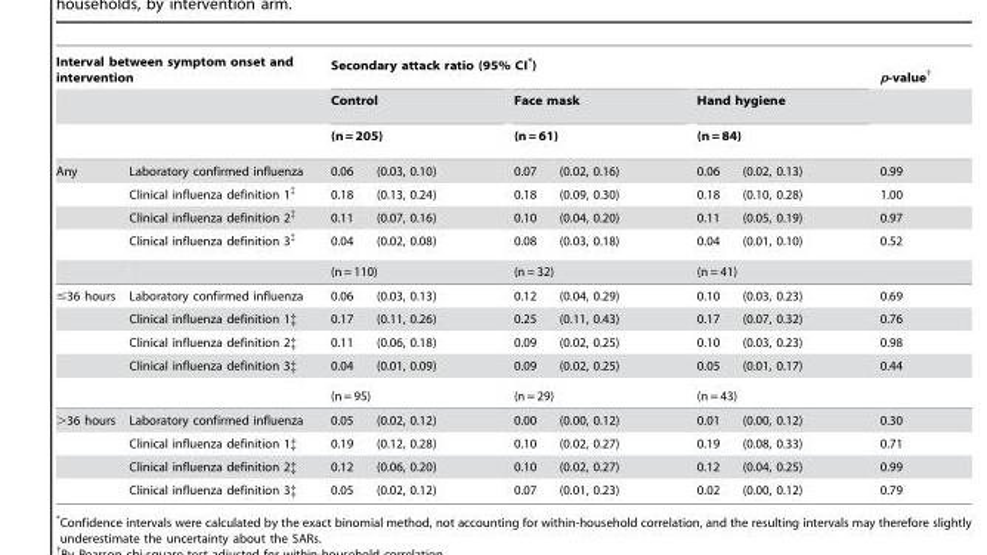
<table><thead><tr><td colspan="2">Interval between symptom onset and intervention</td><td colspan="6">Secondary attack ratio (95% CI*)</td><td rowspan="4">p-value† 0.99</td></tr><tr><td rowspan="3">Any</td><td rowspan="3">Laboratory confirmed influenza</td><td rowspan="2" colspan="2">Control (n = 205)</td><td rowspan="2" colspan="2">Face mask (n = 61)</td><td rowspan="2" colspan="2">Hand hygiene (n = 84)</td></tr><tr></tr><tr><td>0.06</td><td>(0.03, 0.10)</td><td>0.07</td><td>(0.02, 0.16)</td><td>0.06</td><td>(0.02, 0.13)</td></tr></thead><tbody><tr><td></td><td>Clinical influenza definition 1‡</td><td>0.18</td><td>(0.13, 0.24)</td><td>0.18</td><td>(0.09, 0.30)</td><td>0.18</td><td>(0.10, 0.28)</td><td>1.00</td></tr><tr><td></td><td>Clinical influenza definition 2‡</td><td>0.11</td><td>(0.07, 0.16)</td><td>0.10</td><td>(0.04, 0.20)</td><td>0.11</td><td>(0.05, 0.19)</td><td>0.97</td></tr><tr><td></td><td>Clinical influenza definition 3‡</td><td>0.04</td><td>(0.02, 0.08)</td><td>0.08</td><td>(0.03, 0.18)</td><td>0.04</td><td>(0.01, 0.10)</td><td>0.52</td></tr><tr><td></td><td></td><td colspan="2">(n = 110)</td><td colspan="2">(n = 32)</td><td colspan="2">(n = 41)</td><td></td></tr><tr><td rowspan="5">≤36 hours</td><td>Laboratory confirmed influenza</td><td>0.06</td><td>(0.03, 0.13)</td><td>0.12</td><td>(0.04, 0.29)</td><td>0.10</td><td>(0.03, 0.23)</td><td>0.69</td></tr><tr><td>Clinical influenza definition 1‡</td><td>0.17</td><td>(0.11, 0.26)</td><td>0.25</td><td>(0.11, 0.43)</td><td>0.17</td><td>(0.07, 0.32)</td><td>0.76</td></tr><tr><td>Clinical influenza definition 2‡</td><td>0.11</td><td>(0.06, 0.18)</td><td>0.09</td><td>(0.02, 0.25)</td><td>0.10</td><td>(0.03, 0.23)</td><td>0.98</td></tr><tr><td>Clinical influenza definition 3‡</td><td>0.04</td><td>(0.01, 0.09)</td><td>0.09</td><td>(0.02, 0.25)</td><td>0.05</td><td>(0.01, 0.17)</td><td>0.44</td></tr><tr><td></td><td colspan="2">(n = 95)</td><td colspan="2">(n = 29)</td><td colspan="2">(n = 43)</td><td></td></tr><tr><td rowspan="4">&gt;36 hours</td><td>Laboratory confirmed influenza</td><td>0.05</td><td>(0.02, 0.12)</td><td>0.00</td><td>(0.00, 0.12)</td><td>0.01</td><td>(0.00, 0.12)</td><td>0.30</td></tr><tr><td>Clinical influenza definition 1‡</td><td>0.19</td><td>(0.12, 0.28)</td><td>0.10</td><td>(0.02, 0.27)</td><td>0.19</td><td>(0.08, 0.33)</td><td>0.71</td></tr><tr><td>Clinical influenza definition 2‡</td><td>0.12</td><td>(0.06, 0.20)</td><td>0.10</td><td>(0.02, 0.27)</td><td>0.12</td><td>(0.04, 0.25)</td><td>0.99</td></tr><tr><td>Clinical influenza definition 3‡</td><td>0.05</td><td>(0.02, 0.12)</td><td>0.07</td><td>(0.01, 0.23)</td><td>0.02</td><td>(0.00, 0.12)</td><td>0.79</td></tr></tbody></table>